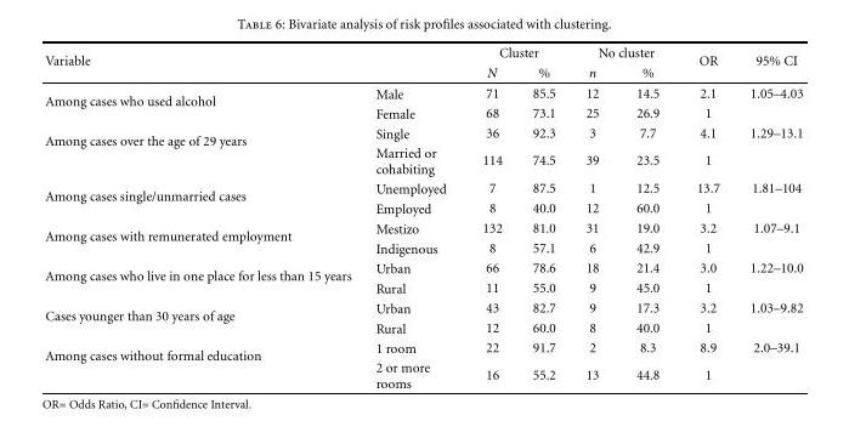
<table><thead><tr><td rowspan="2">Variable</td><td rowspan="2"></td><td colspan="2">Cluster</td><td colspan="2">No cluster</td><td rowspan="2">OR</td><td rowspan="2">95% CI</td></tr><tr><td>N</td><td>%</td><td>n</td><td>%</td></tr></thead><tbody><tr><td rowspan="2">Among cases who used alcohol</td><td>Male</td><td>71</td><td>85.5</td><td>12</td><td>14.5</td><td>2.1</td><td>1.05–4.03</td></tr><tr><td>Female</td><td>68</td><td>73.1</td><td>25</td><td>26.9</td><td>1</td><td></td></tr><tr><td rowspan="2">Among cases over the age of 29 years</td><td>Single</td><td>36</td><td>92.3</td><td>3</td><td>7.7</td><td>4.1</td><td>1.29–13.1</td></tr><tr><td>Married or cohabiting</td><td>114</td><td>74.5</td><td>39</td><td>23.5</td><td>1</td><td></td></tr><tr><td rowspan="2">Among cases single/unmarried cases</td><td>Unemployed</td><td>7</td><td>87.5</td><td>1</td><td>12.5</td><td>13.7</td><td>1.81–104</td></tr><tr><td>Employed</td><td>8</td><td>40.0</td><td>12</td><td>60.0</td><td>1</td><td></td></tr><tr><td rowspan="2">Among cases with remunerated employment</td><td>Mestizo</td><td>132</td><td>81.0</td><td>31</td><td>19.0</td><td>3.2</td><td>1.07–9.1</td></tr><tr><td>Indigenous</td><td>8</td><td>57.1</td><td>6</td><td>42.9</td><td>1</td><td></td></tr><tr><td rowspan="2">Among cases who live in one place for less than 15 years</td><td>Urban</td><td>66</td><td>78.6</td><td>18</td><td>21.4</td><td>3.0</td><td>1.22–10.0</td></tr><tr><td>Rural</td><td>11</td><td>55.0</td><td>9</td><td>45.0</td><td>1</td><td></td></tr><tr><td rowspan="2">Cases younger than 30 years of age</td><td>Urban</td><td>43</td><td>82.7</td><td>9</td><td>17.3</td><td>3.2</td><td>1.03–9.82</td></tr><tr><td>Rural</td><td>12</td><td>60.0</td><td>8</td><td>40.0</td><td>1</td><td></td></tr><tr><td rowspan="2">Among cases without formal education</td><td>1 room</td><td>22</td><td>91.7</td><td>2</td><td>8.3</td><td>8.9</td><td>2.0–39.1</td></tr><tr><td>2 or more rooms</td><td>16</td><td>55.2</td><td>13</td><td>44.8</td><td>1</td><td></td></tr></tbody></table>